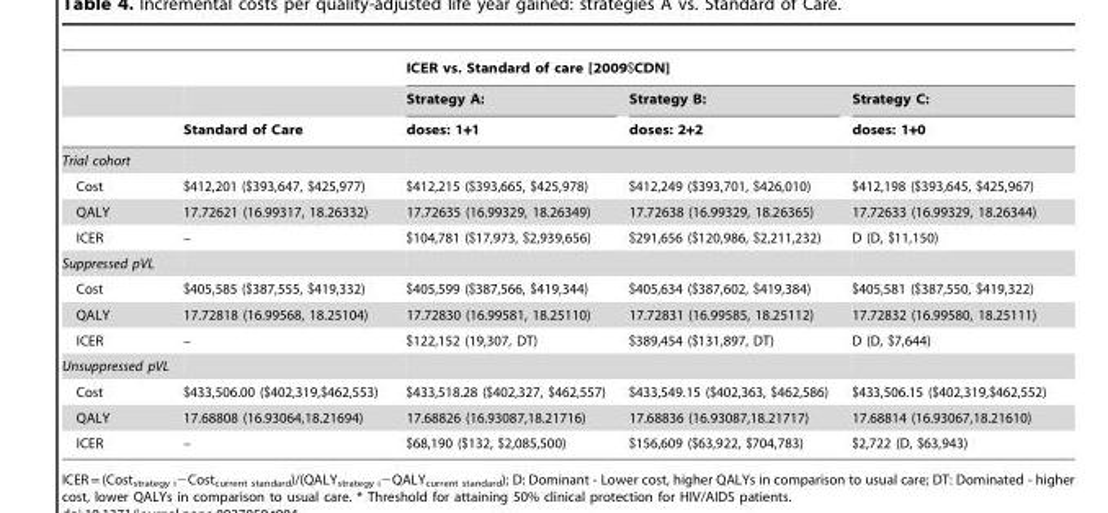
<table><thead><tr><td rowspan="3"></td><td rowspan="3">Standard of Care</td><td colspan="3">ICER vs. Standard of care [2009$CDN]</td></tr><tr><td rowspan="2">Strategy A: doses: 1+1</td><td rowspan="2">Strategy B: doses: 2+2</td><td rowspan="2">Strategy C: doses: 1+0</td></tr><tr></tr></thead><tbody><tr><td colspan="5">Trial cohort</td></tr><tr><td>Cost</td><td>$412,201 ($393,647, $425,977)</td><td>$412,215 ($393,665, $425,978)</td><td>$412,249 ($393,701, $426,010)</td><td>$412,198 ($393,645, $425,967)</td></tr><tr><td>QALY</td><td>17.72621 (16.99317, 18.26332)</td><td>17.72635 (16.99329, 18.26349)</td><td>17.72638 (16.99329, 18.26365)</td><td>17.72633 (16.99329, 18.26344)</td></tr><tr><td>ICER</td><td>–</td><td>$104,781 ($17,973, $2,939,656)</td><td>$291,656 ($120,986, $2,211,232)</td><td>D (D, $11,150)</td></tr><tr><td colspan="5">Suppressed pVL</td></tr><tr><td>Cost</td><td>$405,585 ($387,555, $419,332)</td><td>$405,599 ($387,566, $419,344)</td><td>$405,634 ($387,602, $419,384)</td><td>$405,581 ($387,550, $419,322)</td></tr><tr><td>QALY</td><td>17.72818 (16.99568, 18.25104)</td><td>17.72830 (16.99581, 18.25110)</td><td>17.72831 (16.99585, 18.25112)</td><td>17.72832 (16.99580, 18.25111)</td></tr><tr><td>ICER</td><td>–</td><td>$122,152 (19,307, DT)</td><td>$389,454 ($131,897, DT)</td><td>D (D, $7,644)</td></tr><tr><td colspan="5">Unsuppressed pVL</td></tr><tr><td>Cost</td><td>$433,506.00 ($402,319,$462,553)</td><td>$433,518.28 ($402,327, $462,557)</td><td>$433,549.15 ($402,363, $462,586)</td><td>$433,506.15 ($402,319,$462,552)</td></tr><tr><td>QALY</td><td>17.68808 (16.93064,18.21694)</td><td>17.68826 (16.93087,18.21716)</td><td>17.68836 (16.93087,18.21717)</td><td>17.68814 (16.93067,18.21610)</td></tr><tr><td>ICER</td><td>–</td><td>$68,190 ($132, $2,085,500)</td><td>$156,609 ($63,922, $704,783)</td><td>$2,722 (D, $63,943)</td></tr></tbody></table>